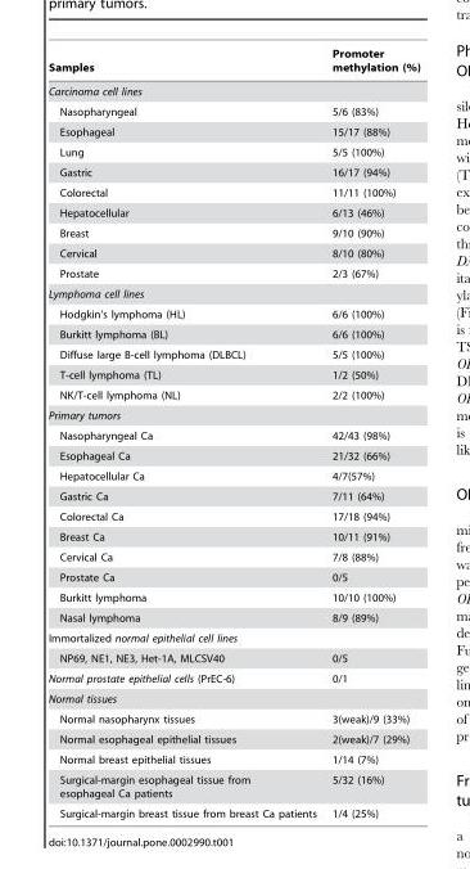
<table><thead><tr><td>Samples</td><td>Promoter methylation (%)</td></tr></thead><tbody><tr><td colspan="2">Carcinoma cell lines</td></tr><tr><td>Nasopharyngeal</td><td>5/6 (83%)</td></tr><tr><td>Esophageal</td><td>15/17 (88%)</td></tr><tr><td>Lung</td><td>5/5 (100%)</td></tr><tr><td>Gastric</td><td>16/17 (94%)</td></tr><tr><td>Colorectal</td><td>11/11 (100%)</td></tr><tr><td>Hepatocellular</td><td>6/13 (46%)</td></tr><tr><td>Breast</td><td>9/10 (90%)</td></tr><tr><td>Cervical</td><td>8/10 (80%)</td></tr><tr><td>Prostate</td><td>2/3 (67%)</td></tr><tr><td colspan="2">Lymphoma cell lines</td></tr><tr><td>Hodgkin’s lymphoma (HL)</td><td>6/6 (100%)</td></tr><tr><td>Burkitt lymphoma (BL)</td><td>6/6 (100%)</td></tr><tr><td>Diffuse large B-cell lymphoma (DLBCL)</td><td>5/5 (100%)</td></tr><tr><td>T-cell lymphoma (TL)</td><td>1/2 (50%)</td></tr><tr><td>NK/T-cell lymphoma (NL)</td><td>2/2 (100%)</td></tr><tr><td colspan="2">Primary tumors</td></tr><tr><td>Nasopharyngeal Ca</td><td>42/43 (98%)</td></tr><tr><td>Esophageal Ca</td><td>21/32 (66%)</td></tr><tr><td>Hepatocellular Ca</td><td>4/7(57%)</td></tr><tr><td>Gastric Ca</td><td>7/11 (64%)</td></tr><tr><td>Colorectal Ca</td><td>17/18 (94%)</td></tr><tr><td>Breast Ca</td><td>10/11 (91%)</td></tr><tr><td>Cervical Ca</td><td>7/8 (88%)</td></tr><tr><td>Prostate Ca</td><td>0/5</td></tr><tr><td>Burkitt lymphoma</td><td>10/10 (100%)</td></tr><tr><td>Nasal lymphoma</td><td>8/9 (89%)</td></tr><tr><td colspan="2">Immortalized normal epithelial cell lines</td></tr><tr><td>NP69, NE1, NE3, Het-1A, MLCSV40</td><td>0/5</td></tr><tr><td>Normal prostate epithelial cells (PrEC-6)</td><td>0/1</td></tr><tr><td colspan="2">Normal tissues</td></tr><tr><td>Normal nasopharynx tissues</td><td>3(weak)/9 (33%)</td></tr><tr><td>Normal esophageal epithelial tissues</td><td>2(weak)/7 (29%)</td></tr><tr><td>Normal breast epithelial tissues</td><td>1/14 (7%)</td></tr><tr><td>Surgical-margin esophageal tissue from esophageal Ca patients</td><td>5/32 (16%)</td></tr><tr><td>Surgical-margin breast tissue from breast Ca patients</td><td>1/4 (25%)</td></tr></tbody></table>